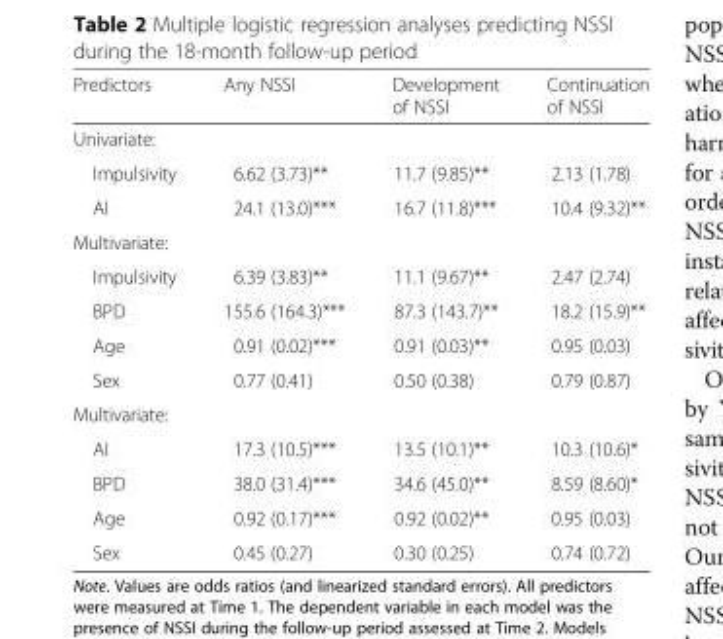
<table><thead><tr><td>Predictors</td><td>Any NSSI</td><td>Development of NSSI</td><td>Continuation of NSSI</td></tr></thead><tbody><tr><td colspan="4">Univariate:</td></tr><tr><td>Impulsivity</td><td>6.62 (3.73)**</td><td>11.7 (9.85)**</td><td>2.13 (1.78)</td></tr><tr><td>AI</td><td>24.1 (13.0)***</td><td>16.7 (11.8)***</td><td>10.4 (9.32)**</td></tr><tr><td colspan="4">Multivariate:</td></tr><tr><td>Impulsivity</td><td>6.39 (3.83)**</td><td>11.1 (9.67)**</td><td>2.47 (2.74)</td></tr><tr><td>BPD</td><td>155.6 (164.3)***</td><td>87.3 (143.7)**</td><td>18.2 (15.9)**</td></tr><tr><td>Age</td><td>0.91 (0.02)***</td><td>0.91 (0.03)**</td><td>0.95 (0.03)</td></tr><tr><td>Sex</td><td>0.77 (0.41)</td><td>0.50 (0.38)</td><td>0.79 (0.87)</td></tr><tr><td colspan="4">Multivariate:</td></tr><tr><td>AI</td><td>17.3 (10.5)***</td><td>13.5 (10.1)**</td><td>10.3 (10.6)*</td></tr><tr><td>BPD</td><td>38.0 (31.4)***</td><td>34.6 (45.0)**</td><td>8.59 (8.60)*</td></tr><tr><td>Age</td><td>0.92 (0.17)***</td><td>0.92 (0.02)**</td><td>0.95 (0.03)</td></tr><tr><td>Sex</td><td>0.45 (0.27)</td><td>0.30 (0.25)</td><td>0.74 (0.72)</td></tr></tbody></table>